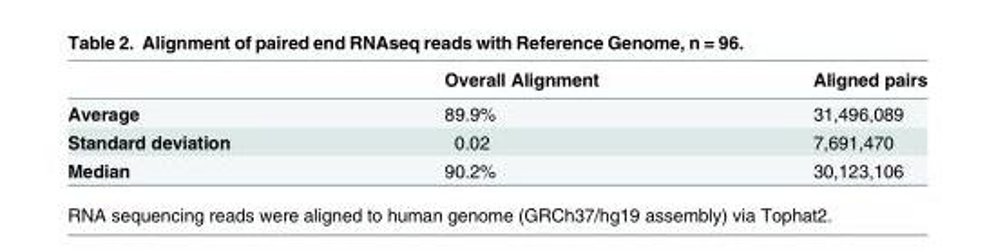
<table><thead><tr><td></td><td>Overall Alignment</td><td>Aligned pairs</td></tr></thead><tbody><tr><td>Average</td><td>89.9%</td><td>31,496,089</td></tr><tr><td>Standard deviation</td><td>0.02</td><td>7,691,470</td></tr><tr><td>Median</td><td>90.2%</td><td>30,123,106</td></tr></tbody></table>